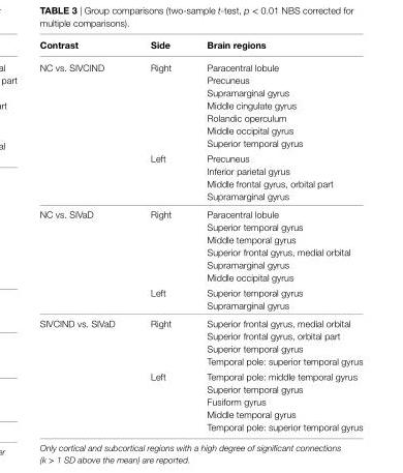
<table><thead><tr><td>contrast</td><td>side</td><td>Brain regions</td></tr></thead><tbody><tr><td rowspan="11">NC vs. SIVCIND</td><td>Right</td><td>Paracentral lobule</td></tr><tr><td></td><td>Precuneus</td></tr><tr><td></td><td>Supramarginal gyrus</td></tr><tr><td></td><td>Middle cingulate gyrus</td></tr><tr><td></td><td>Rolandic operculum</td></tr><tr><td></td><td>Middle occipital gyrus</td></tr><tr><td></td><td>Superior temporal gyrus</td></tr><tr><td>Left</td><td>Precuneus</td></tr><tr><td></td><td>Inferior parietal gyrus</td></tr><tr><td></td><td>Middle frontal gyrus, orbital part</td></tr><tr><td></td><td>Supramarginal gyrus</td></tr><tr><td rowspan="8">NC vs. SIVaD</td><td>Right</td><td>Paracentral lobule</td></tr><tr><td></td><td>Superior temporal gyrus</td></tr><tr><td></td><td>Middle temporal gyrus</td></tr><tr><td></td><td>Superior frontal gyrus, medial orbital</td></tr><tr><td></td><td>Supramarginal gyrus</td></tr><tr><td></td><td>Middle occipital gyrus</td></tr><tr><td>Left</td><td>Superior temporal gyrus</td></tr><tr><td></td><td>Supramarginal gyrus</td></tr><tr><td rowspan="9">SIVCIND vs. SIVaD</td><td>Right</td><td>Superior frontal gyrus, medial orbital</td></tr><tr><td></td><td>Superior frontal gyrus, orbital part</td></tr><tr><td></td><td>Superior temporal gyrus</td></tr><tr><td></td><td>Temporal pole: superior temporal gyrus</td></tr><tr><td>Left</td><td>Temporal pole: middle temporal gyrus</td></tr><tr><td></td><td>Superior temporal gyrus</td></tr><tr><td></td><td>Fusiform gyrus</td></tr><tr><td></td><td>Middle temporal gyrus</td></tr><tr><td></td><td>Temporal pole: superior temporal gyrus</td></tr></tbody></table>